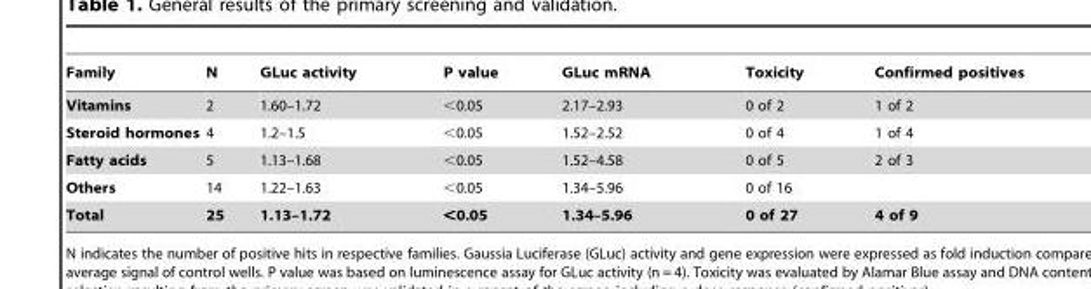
<table><thead><tr><td>Family</td><td>N</td><td>GLuc activity</td><td>P value</td><td>GLuc mRNA</td><td>Toxicity</td><td>Confirmed positives</td></tr></thead><tbody><tr><td>Vitamins</td><td>2</td><td>1.60–1.72</td><td>&lt;0.05</td><td>2.17–2.93</td><td>0 of 2</td><td>1 of 2</td></tr><tr><td>Steroid hormones</td><td>4</td><td>1.2–1.5</td><td>&lt;0.05</td><td>1.52–2.52</td><td>0 of 4</td><td>1 of 4</td></tr><tr><td>Fatty acids</td><td>5</td><td>1.13–1.68</td><td>&lt;0.05</td><td>1.52–4.58</td><td>0 of 5</td><td>2 of 3</td></tr><tr><td>Others</td><td>14</td><td>1.22–1.63</td><td>&lt;0.05</td><td>1.34–5.96</td><td>0 of 16</td><td></td></tr><tr><td>Total</td><td>25</td><td>1.13–1.72</td><td>&lt;0.05</td><td>1.34–5.96</td><td>0 of 27</td><td>4 of 9</td></tr></tbody></table>